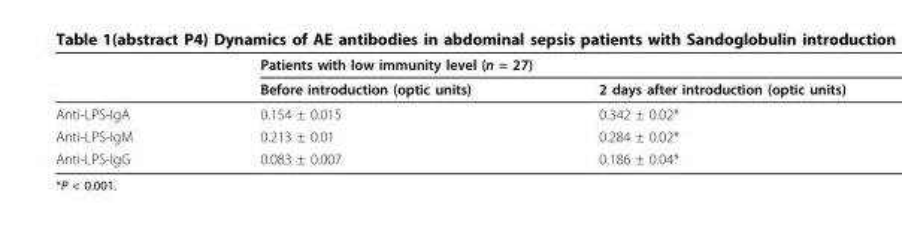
<table><thead><tr><td rowspan="2"></td><td colspan="2">Patients with low immunity level (n = 27)</td></tr><tr><td>Before introduction (optic units)</td><td>2 days after introduction (optic units)</td></tr></thead><tbody><tr><td>Anti-LPS-IgA</td><td>0.154 ± 0.015</td><td>0.342 ± 0.02*</td></tr><tr><td>Anti-LPS-IgM</td><td>0.213 ± 0.01</td><td>0.284 ± 0.02*</td></tr><tr><td>Anti-LPS-IgG</td><td>0.083 ± 0.007</td><td>0.186 ± 0.04*</td></tr></tbody></table>